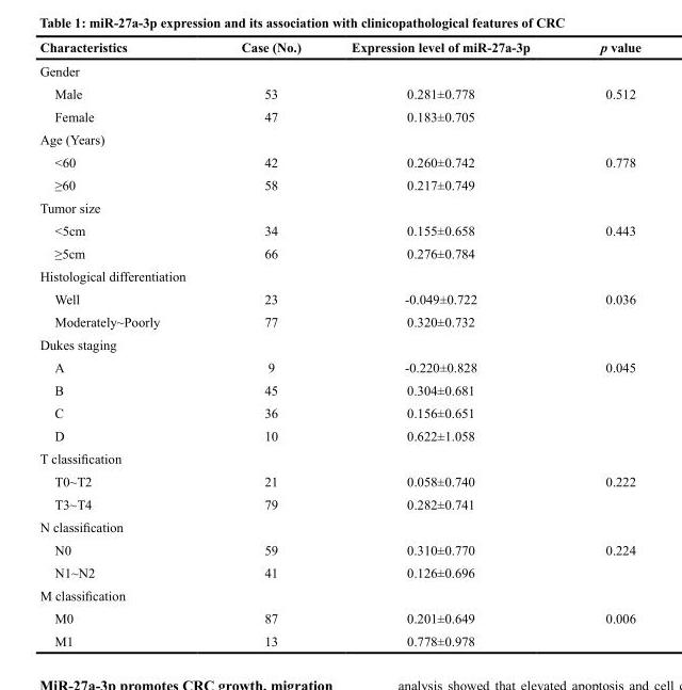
<table><thead><tr><td>Characteristics</td><td>Case (No.)</td><td>Expression level of miR-27a-3p</td><td>p value</td></tr></thead><tbody><tr><td colspan="4">Gender</td></tr><tr><td>Male</td><td>53</td><td>0.281±0.778</td><td>0.512</td></tr><tr><td>Female</td><td>47</td><td>0.183±0.705</td><td></td></tr><tr><td colspan="4">Age (Years)</td></tr><tr><td>&lt;60</td><td>42</td><td>0.260±0.742</td><td>0.778</td></tr><tr><td>≥60</td><td>58</td><td>0.217±0.749</td><td></td></tr><tr><td colspan="4">Tumor size</td></tr><tr><td>&lt;5cm</td><td>34</td><td>0.155±0.658</td><td>0.443</td></tr><tr><td>≥5cm</td><td>66</td><td>0.276±0.784</td><td></td></tr><tr><td colspan="4">Histological differentiation</td></tr><tr><td>Well</td><td>23</td><td>-0.049±0.722</td><td>0.036</td></tr><tr><td>Moderately~Poorly</td><td>77</td><td>0.320±0.732</td><td></td></tr><tr><td colspan="4">Dukes staging</td></tr><tr><td>A</td><td>9</td><td>-0.220±0.828</td><td>0.045</td></tr><tr><td>B</td><td>45</td><td>0.304±0.681</td><td></td></tr><tr><td>C</td><td>36</td><td>0.156±0.651</td><td></td></tr><tr><td>D</td><td>10</td><td>0.622±1.058</td><td></td></tr><tr><td colspan="4">T classification</td></tr><tr><td>T0~T2</td><td>21</td><td>0.058±0.740</td><td>0.222</td></tr><tr><td>T3~T4</td><td>79</td><td>0.282±0.741</td><td></td></tr><tr><td colspan="4">N classification</td></tr><tr><td>N0</td><td>59</td><td>0.310±0.770</td><td>0.224</td></tr><tr><td>N1~N2</td><td>41</td><td>0.126±0.696</td><td></td></tr><tr><td colspan="4">M classification</td></tr><tr><td>M0</td><td>87</td><td>0.201±0.649</td><td>0.006</td></tr><tr><td>M1</td><td>13</td><td>0.778±0.978</td><td></td></tr></tbody></table>